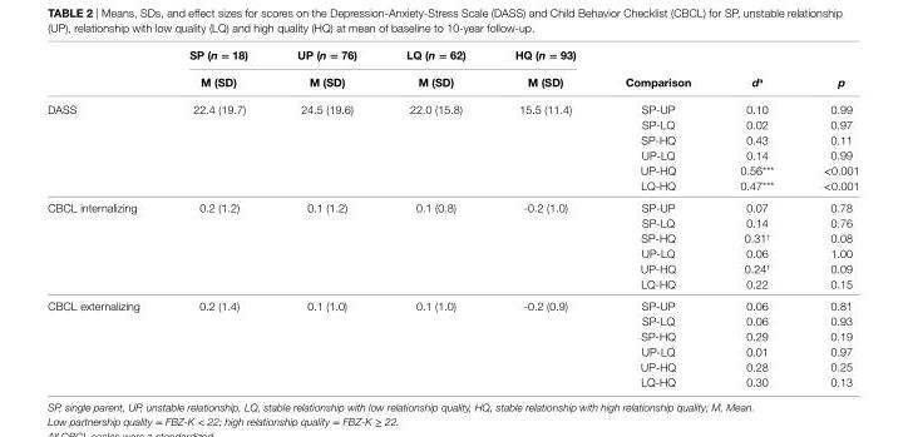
<table><thead><tr><td rowspan="2"></td><td rowspan="2">sP (n = 18) M (sD)</td><td rowspan="2">UP (n = 76) M (sD)</td><td rowspan="2">lQ (n = 62) M (sD)</td><td rowspan="2">hQ (n = 93) M (sD)</td><td rowspan="2">comparison</td><td rowspan="2">d<sup>a</sup></td><td rowspan="2">p</td></tr><tr></tr></thead><tbody><tr><td>DASS</td><td>22.4 (19.7)</td><td>24.5 (19.6)</td><td>22.0 (15.8)</td><td>15.5 (11.4)</td><td>SP-UP SP-LQ SP-HQ UP-LQ UP-HQ LQ-HQ</td><td>0.10 0.02 0.43 0.14 0.56*** 0.47***</td><td>0.99 0.97 0.11 0.99 &lt;0.001 &lt;0.001</td></tr><tr><td>CBCL internalizing</td><td>0.2 (1.2)</td><td>0.1 (1.2)</td><td>0.1 (0.8)</td><td>-0.2 (1.0)</td><td>SP-UP SP-LQ SP-HQ UP-LQ UP-HQ LQ-HQ</td><td>0.07 0.14 0.31<sup>†</sup> 0.06 0.24<sup>†</sup> 0.22</td><td>0.78 0.76 0.08 1.00 0.09 0.15</td></tr><tr><td>CBCL externalizing</td><td>0.2 (1.4)</td><td>0.1 (1.0)</td><td>0.1 (1.0)</td><td>-0.2 (0.9)</td><td>SP-UP SP-LQ SP-HQ UP-LQ UP-HQ LQ-HQ</td><td>0.06 0.06 0.29 0.01 0.28 0.30</td><td>0.81 0.93 0.19 0.97 0.25 0.13</td></tr></tbody></table>